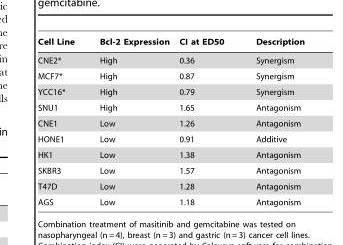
<table><thead><tr><td>Cell Line</td><td>Bcl-2 Expression</td><td>CI at ED50</td><td>Description</td></tr></thead><tbody><tr><td>CNE2*</td><td>High</td><td>0.36</td><td>Synergism</td></tr><tr><td>MCF7*</td><td>High</td><td>0.87</td><td>Synergism</td></tr><tr><td>YCC16*</td><td>High</td><td>0.79</td><td>Synergism</td></tr><tr><td>SNU1</td><td>High</td><td>1.65</td><td>Antagonism</td></tr><tr><td>CNE1</td><td>Low</td><td>1.26</td><td>Antagonism</td></tr><tr><td>HONE1</td><td>Low</td><td>0.91</td><td>Additive</td></tr><tr><td>HK1</td><td>Low</td><td>1.38</td><td>Antagonism</td></tr><tr><td>SKBR3</td><td>Low</td><td>1.57</td><td>Antagonism</td></tr><tr><td>T47D</td><td>Low</td><td>1.28</td><td>Antagonism</td></tr><tr><td>AGS</td><td>Low</td><td>1.18</td><td>Antagonism</td></tr></tbody></table>